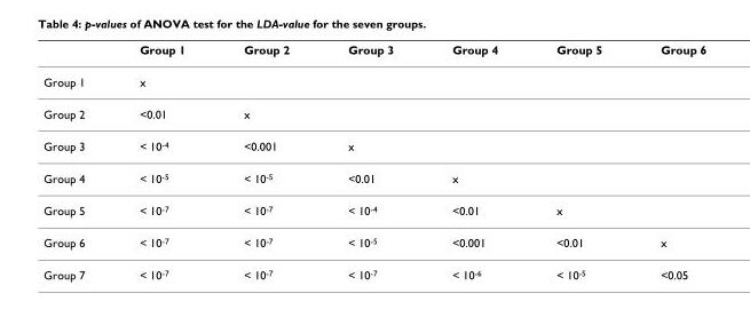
<table><thead><tr><td></td><td>Group 1</td><td>Group 2</td><td>Group 3</td><td>Group 4</td><td>Group 5</td><td>Group 6</td></tr></thead><tbody><tr><td>Group 1</td><td>x</td><td></td><td></td><td></td><td></td><td></td></tr><tr><td>Group 2</td><td>&lt;0.01</td><td>x</td><td></td><td></td><td></td><td></td></tr><tr><td>Group 3</td><td>&lt; 10<sup>-4</sup></td><td>&lt;0.001</td><td>x</td><td></td><td></td><td></td></tr><tr><td>Group 4</td><td>&lt; 10<sup>-5</sup></td><td>&lt; 10<sup>-5</sup></td><td>&lt;0.01</td><td>x</td><td></td><td></td></tr><tr><td>Group 5</td><td>&lt; 10<sup>-7</sup></td><td>&lt; 10<sup>-7</sup></td><td>&lt; 10<sup>-4</sup></td><td>&lt;0.01</td><td>x</td><td></td></tr><tr><td>Group 6</td><td>&lt; 10<sup>-7</sup></td><td>&lt; 10<sup>-7</sup></td><td>&lt; 10<sup>-5</sup></td><td>&lt;0.001</td><td>&lt;0.01</td><td>x</td></tr><tr><td>Group 7</td><td>&lt; 10<sup>-7</sup></td><td>&lt; 10<sup>-7</sup></td><td>&lt; 10<sup>-7</sup></td><td>&lt; 10<sup>-6</sup></td><td>&lt; 10<sup>-5</sup></td><td>&lt;0.05</td></tr></tbody></table>